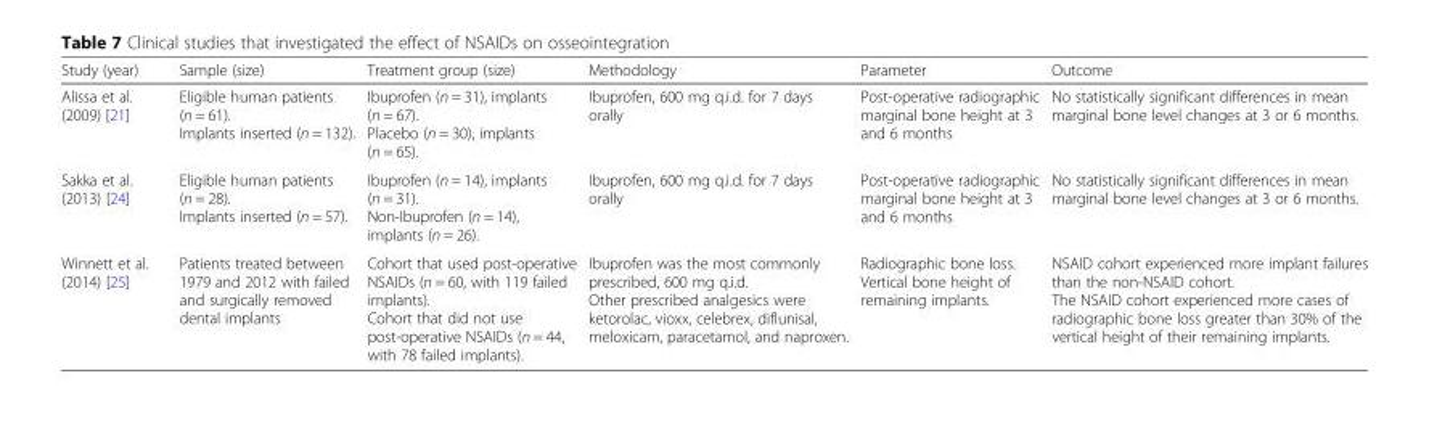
<table><thead><tr><td>Study (year)</td><td>Sample (size)</td><td>Treatment group (size)</td><td>Methodology</td><td>Parameter</td><td>Outcome</td></tr></thead><tbody><tr><td>Alissa et al. (2009) [21]</td><td>Eligible human patients (n = 61). Implants inserted (n = 132).</td><td>Ibuprofen (n = 31), implants (n = 67). Placebo (n = 30), implants (n = 65).</td><td>Ibuprofen, 600 mg q.i.d. for 7 days orally</td><td>Post-operative radiographic marginal bone height at 3 and 6 months</td><td>No statistically significant differences in mean marginal bone level changes at 3 or 6 months.</td></tr><tr><td>Sakka et al. (2013) [24]</td><td>Eligible human patients (n = 28). Implants inserted (n = 57).</td><td>Ibuprofen (n = 14), implants (n = 31). Non-Ibuprofen (n = 14), implants (n = 26).</td><td>Ibuprofen, 600 mg q.i.d. for 7 days orally</td><td>Post-operative radiographic marginal bone height at 3 and 6 months</td><td>No statistically significant differences in mean marginal bone level changes at 3 or 6 months.</td></tr><tr><td>Winnett et al. (2014) [25]</td><td>Patients treated between 1979 and 2012 with failed and surgically removed dental implants</td><td>Cohort that used post-operative NSAIDs (n = 60, with 119 failed implants). Cohort that did not use post-operative NSAIDs (n = 44, with 78 failed implants).</td><td>Ibuprofen was the most commonly prescribed, 600 mg q.i.d. Other prescribed analgesics were ketorolac, vioxx, celebrex, diflunisal, meloxicam, paracetamol, and naproxen.</td><td>Radiographic bone loss. Vertical bone height of remaining implants.</td><td>NSAID cohort experienced more implant failures than the non-NSAID cohort. The NSAID cohort experienced more cases of radiographic bone loss greater than 30% of the vertical height of their remaining implants.</td></tr></tbody></table>